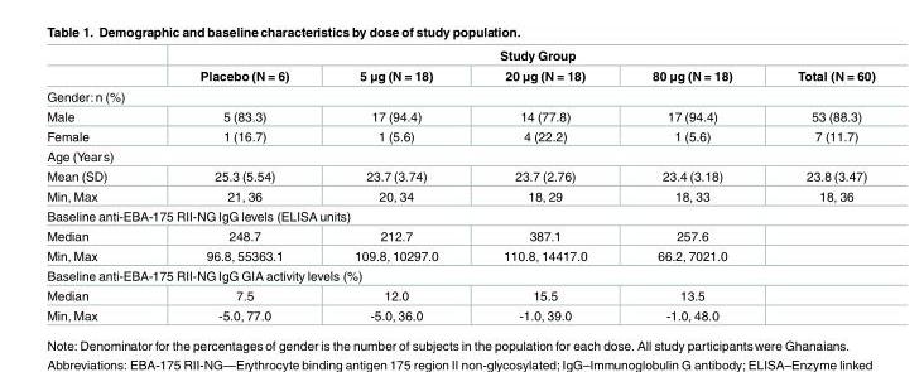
<table><thead><tr><td rowspan="2"></td><td colspan="5">Study Group</td></tr><tr><td>Placebo (N = 6)</td><td>5 μg (N = 18)</td><td>20 μg (N = 18)</td><td>80 μg (N = 18)</td><td>Total (N = 60)</td></tr></thead><tbody><tr><td colspan="6">Gender:n (%)</td></tr><tr><td>Male</td><td>5 (83.3)</td><td>17 (94.4)</td><td>14 (77.8)</td><td>17 (94.4)</td><td>53 (88.3)</td></tr><tr><td>Female</td><td>1 (16.7)</td><td>1 (5.6)</td><td>4 (22.2)</td><td>1 (5.6)</td><td>7 (11.7)</td></tr><tr><td colspan="6">Age (Years)</td></tr><tr><td>Mean (SD)</td><td>25.3 (5.54)</td><td>23.7 (3.74)</td><td>23.7 (2.76)</td><td>23.4 (3.18)</td><td>23.8 (3.47)</td></tr><tr><td>Min, Max</td><td>21, 36</td><td>20, 34</td><td>18, 29</td><td>18, 33</td><td>18, 36</td></tr><tr><td colspan="6">Baseline anti-EBA-175 RII-NG IgG levels (ELISA units)</td></tr><tr><td>Median</td><td>248.7</td><td>212.7</td><td>387.1</td><td>257.6</td><td></td></tr><tr><td>Min, Max</td><td>96.8, 55363.1</td><td>109.8, 10297.0</td><td>110.8, 14417.0</td><td>66.2, 7021.0</td><td></td></tr><tr><td colspan="6">Baseline anti-EBA-175 RII-NG IgG GIA activity levels (%)</td></tr><tr><td>Median</td><td>7.5</td><td>12.0</td><td>15.5</td><td>13.5</td><td></td></tr><tr><td>Min, Max</td><td>-5.0, 77.0</td><td>-5.0, 36.0</td><td>-1.0, 39.0</td><td>-1.0, 48.0</td><td></td></tr></tbody></table>